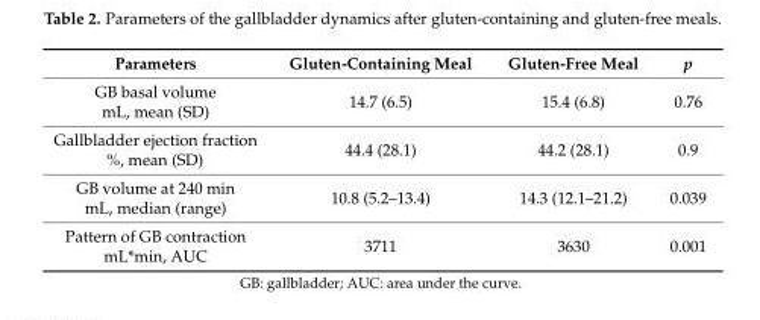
<table><thead><tr><td>Parameters</td><td>Gluten-Containing Meal</td><td>Gluten-Free Meal</td><td>p</td></tr></thead><tbody><tr><td>GB basal volume mL, mean (SD)</td><td>14.7 (6.5)</td><td>15.4 (6.8)</td><td>0.76</td></tr><tr><td>Gallbladder ejection fraction %, mean (SD)</td><td>44.4 (28.1)</td><td>44.2 (28.1)</td><td>0.9</td></tr><tr><td>GB volume at 240 min mL, median (range)</td><td>10.8 (5.2–13.4)</td><td>14.3 (12.1–21.2)</td><td>0.039</td></tr><tr><td>Pattern of GB contraction mL*min, AUC</td><td>3711</td><td>3630</td><td>0.001</td></tr></tbody></table>